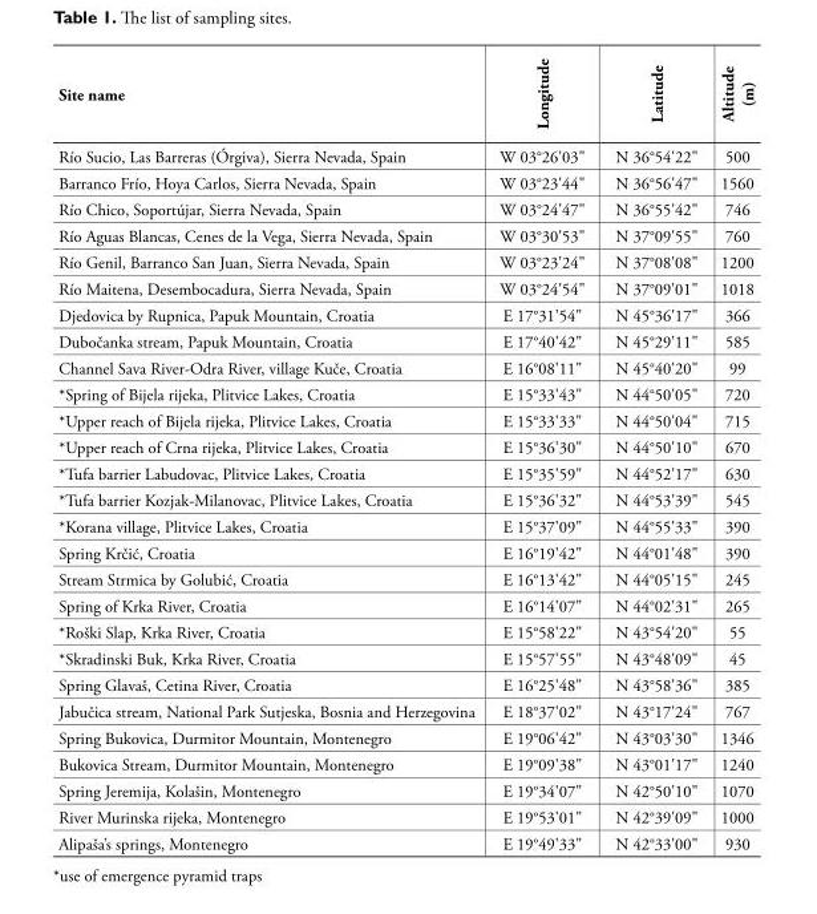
<table><thead><tr><td>Site name</td><td>Longitude</td><td>Latitude</td><td>Altitude (m)</td></tr></thead><tbody><tr><td>Río Sucio, Las Barreras (Órgiva), Sierra Nevada, Spain</td><td>W 03°26&#x27;03&quot;</td><td>N 36°54&#x27;22&quot;</td><td>500</td></tr><tr><td>Barranco Frío, Hoya Carlos, Sierra Nevada, Spain</td><td>W 03°23&#x27;44&quot;</td><td>N 36°56&#x27;47&quot;</td><td>1560</td></tr><tr><td>Río Chico, Soportújar, Sierra Nevada, Spain</td><td>W 03°24&#x27;47&quot;</td><td>N 36°55&#x27;42&quot;</td><td>746</td></tr><tr><td>Río Aguas Blancas, Cenes de la Vega, Sierra Nevada, Spain</td><td>W 03°30&#x27;53&quot;</td><td>N 37°09&#x27;55&quot;</td><td>760</td></tr><tr><td>Río Genil, Barranco San Juan, Sierra Nevada, Spain</td><td>W 03°23&#x27;24&quot;</td><td>N 37°08&#x27;08&quot;</td><td>1200</td></tr><tr><td>Río Maitena, Desembocadura, Sierra Nevada, Spain</td><td>W 03°24&#x27;54&quot;</td><td>N 37°09&#x27;01&quot;</td><td>1018</td></tr><tr><td>Djedovica by Rupnica, Papuk Mountain, Croatia</td><td>E 17°31&#x27;54&quot;</td><td>N 45°36&#x27;17&quot;</td><td>366</td></tr><tr><td>Dubočanka stream, Papuk Mountain, Croatia</td><td>E 17°40&#x27;42&quot;</td><td>N 45°29&#x27;11&quot;</td><td>585</td></tr><tr><td>Channel Sava River-Odra River, village Kuče, Croatia</td><td>E 16°08&#x27;11&quot;</td><td>N 45°40&#x27;20&quot;</td><td>99</td></tr><tr><td>*Spring of Bijela rijeka, Plitvice Lakes, Croatia</td><td>E 15°33&#x27;43&quot;</td><td>N 44°50&#x27;05&quot;</td><td>720</td></tr><tr><td>*Upper reach of Bijela rijeka, Plitvice Lakes, Croatia</td><td>E 15°33&#x27;33&quot;</td><td>N 44°50&#x27;04&quot;</td><td>715</td></tr><tr><td>*Upper reach of Crna rijeka, Plitvice Lakes, Croatia</td><td>E 15°36&#x27;30&quot;</td><td>N 44°50&#x27;10&quot;</td><td>670</td></tr><tr><td>*Tufa barrier Labudovac, Plitvice Lakes, Croatia</td><td>E 15°35&#x27;59&quot;</td><td>N 44°52&#x27;17&quot;</td><td>630</td></tr><tr><td>*Tufa barrier Kozjak-Milanovac, Plitvice Lakes, Croatia</td><td>E 15°36&#x27;32&quot;</td><td>N 44°53&#x27;39&quot;</td><td>545</td></tr><tr><td>*Korana village, Plitvice Lakes, Croatia</td><td>E 15°37&#x27;09&quot;</td><td>N 44°55&#x27;33&quot;</td><td>390</td></tr><tr><td>Spring Krčić, Croatia</td><td>E 16°19&#x27;42&quot;</td><td>N 44°01&#x27;48&quot;</td><td>390</td></tr><tr><td>Stream Strmica by Golubić, Croatia</td><td>E 16°13&#x27;42&quot;</td><td>N 44°05&#x27;15&quot;</td><td>245</td></tr><tr><td>Spring of Krka River, Croatia</td><td>E 16°14&#x27;07&quot;</td><td>N 44°02&#x27;31&quot;</td><td>265</td></tr><tr><td>*Roški Slap, Krka River, Croatia</td><td>E 15°58&#x27;22&quot;</td><td>N 43°54&#x27;20&quot;</td><td>55</td></tr><tr><td>*Skradinski Buk, Krka River, Croatia</td><td>E 15°57&#x27;55&quot;</td><td>N 43°48&#x27;09&quot;</td><td>45</td></tr><tr><td>Spring Glavaš, Cetina River, Croatia</td><td>E 16°25&#x27;48&quot;</td><td>N 43°58&#x27;36&quot;</td><td>385</td></tr><tr><td>Jabučica stream, National Park Sutjeska, Bosnia and Herzegovina</td><td>E 18°37&#x27;02&quot;</td><td>N 43°17&#x27;24&quot;</td><td>767</td></tr><tr><td>Spring Bukovica, Durmitor Mountain, Montenegro</td><td>E 19°06&#x27;42&quot;</td><td>N 43°03&#x27;30&quot;</td><td>1346</td></tr><tr><td>Bukovica Stream, Durmitor Mountain, Montenegro</td><td>E 19°09&#x27;38&quot;</td><td>N 43°01&#x27;17&quot;</td><td>1240</td></tr><tr><td>Spring Jeremija, Kolašin, Montenegro</td><td>E 19°34&#x27;07&quot;</td><td>N 42°50&#x27;10&quot;</td><td>1070</td></tr><tr><td>River Murinska rijeka, Montenegro</td><td>E 19°53&#x27;01&quot;</td><td>N 42°39&#x27;09&quot;</td><td>1000</td></tr><tr><td>Alipaša’s springs, Montenegro</td><td>E 19°49&#x27;33&quot;</td><td>N 42°33&#x27;00&quot;</td><td>930</td></tr></tbody></table>